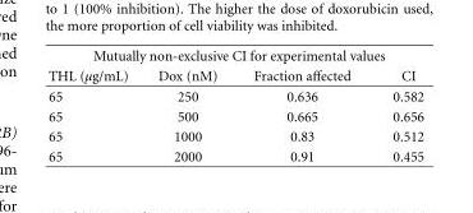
<table><thead><tr><td colspan="4">Mutually non-exclusive CI for experimental values</td></tr><tr><td>THL (μg/mL)</td><td>Dox (nM)</td><td>Fraction affected</td><td>CI</td></tr></thead><tbody><tr><td>65</td><td>250</td><td>0.636</td><td>0.582</td></tr><tr><td>65</td><td>500</td><td>0.665</td><td>0.656</td></tr><tr><td>65</td><td>1000</td><td>0.83</td><td>0.512</td></tr><tr><td>65</td><td>2000</td><td>0.91</td><td>0.455</td></tr></tbody></table>